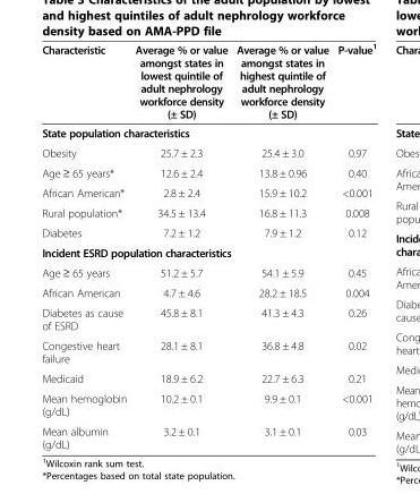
<table><thead><tr><td>Characteristic</td><td>Average % or value amongst states in lowest quintile of adult nephrology workforce density (± SD)</td><td>Average % or value amongst states in highest quintile of adult nephrology workforce density (± SD)</td><td>P-value<sup>1</sup></td></tr></thead><tbody><tr><td colspan="4">State population characteristics</td></tr><tr><td>Obesity</td><td>25.7 ± 2.3</td><td>25.4 ± 3.0</td><td>0.97</td></tr><tr><td>Age ≥ 65 years*</td><td>12.6 ± 2.4</td><td>13.8 ± 0.96</td><td>0.40</td></tr><tr><td>African American*</td><td>2.8 ± 2.4</td><td>15.9 ± 10.2</td><td>&lt;0.001</td></tr><tr><td>Rural population*</td><td>34.5 ± 13.4</td><td>16.8 ± 11.3</td><td>0.008</td></tr><tr><td>Diabetes</td><td>7.2 ± 1.2</td><td>7.9 ± 1.2</td><td>0.12</td></tr><tr><td colspan="4">Incident ESRD population characteristics</td></tr><tr><td>Age ≥ 65 years</td><td>51.2 ± 5.7</td><td>54.1 ± 5.9</td><td>0.45</td></tr><tr><td>African American</td><td>4.7 ± 4.6</td><td>28.2 ± 18.5</td><td>0.004</td></tr><tr><td>Diabetes as cause of ESRD</td><td>45.8 ± 8.1</td><td>41.3 ± 4.3</td><td>0.26</td></tr><tr><td>Congestive heart failure</td><td>28.1 ± 8.1</td><td>36.8 ± 4.8</td><td>0.02</td></tr><tr><td>Medicaid</td><td>18.9 ± 6.2</td><td>22.7 ± 6.3</td><td>0.21</td></tr><tr><td>Mean hemoglobin (g/dL)</td><td>10.2 ± 0.1</td><td>9.9 ± 0.1</td><td>&lt;0.001</td></tr><tr><td>Mean albumin (g/dL)</td><td>3.2 ± 0.1</td><td>3.1 ± 0.1</td><td>0.03</td></tr></tbody></table>